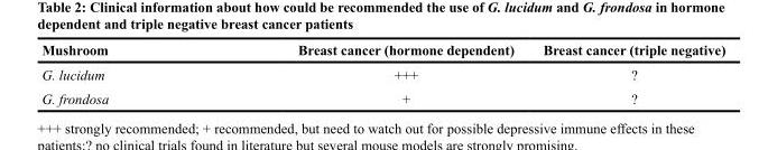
<table><thead><tr><td>Mushroom</td><td>Breast cancer (hormone dependent)</td><td>Breast cancer (triple negative)</td></tr></thead><tbody><tr><td>G. lucidum</td><td>+++</td><td>?</td></tr><tr><td>G. frondosa</td><td>+</td><td>?</td></tr></tbody></table>